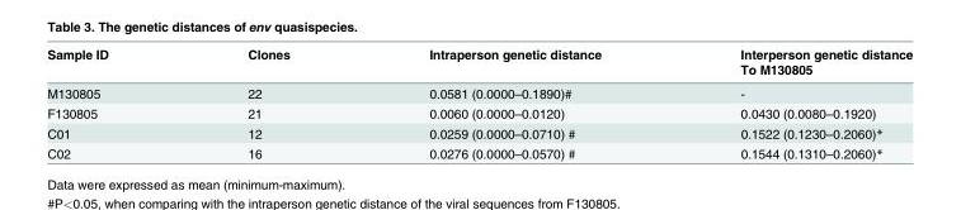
<table><thead><tr><td rowspan="2">Sample ID</td><td rowspan="2">Clones</td><td rowspan="2">Intraperson genetic distance</td><td rowspan="2">Interperson genetic distance To M130805</td></tr><tr></tr></thead><tbody><tr><td>M130805</td><td>22</td><td>0.0581 (0.0000–0.1890)#</td><td>-</td></tr><tr><td>F130805</td><td>21</td><td>0.0060 (0.0000–0.0120)</td><td>0.0430 (0.0080–0.1920)</td></tr><tr><td>C01</td><td>12</td><td>0.0259 (0.0000–0.0710) #</td><td>0.1522 (0.1230–0.2060)*</td></tr><tr><td>C02</td><td>16</td><td>0.0276 (0.0000–0.0570) #</td><td>0.1544 (0.1310–0.2060)*</td></tr></tbody></table>